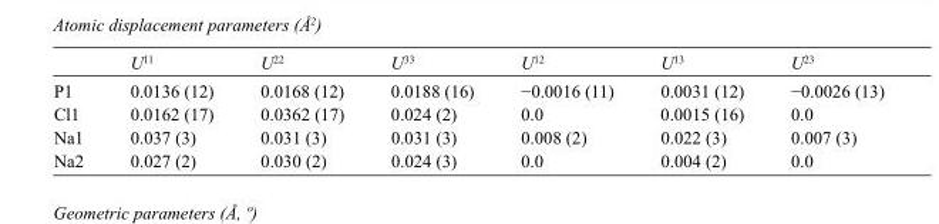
<table><thead><tr><td></td><td>U<sup>11</sup></td><td>U<sup>22</sup></td><td>U<sup>33</sup></td><td>U<sup>12</sup></td><td>U<sup>13</sup></td><td>U<sup>23</sup></td></tr></thead><tbody><tr><td>P1</td><td>0.0136 (12)</td><td>0.0168 (12)</td><td>0.0188 (16)</td><td>−0.0016 (11)</td><td>0.0031 (12)</td><td>−0.0026 (13)</td></tr><tr><td>Cl1</td><td>0.0162 (17)</td><td>0.0362 (17)</td><td>0.024 (2)</td><td>0.0</td><td>0.0015 (16)</td><td>0.0</td></tr><tr><td>Na1</td><td>0.037 (3)</td><td>0.031 (3)</td><td>0.031 (3)</td><td>0.008 (2)</td><td>0.022 (3)</td><td>0.007 (3)</td></tr><tr><td>Na2</td><td>0.027 (2)</td><td>0.030 (2)</td><td>0.024 (3)</td><td>0.0</td><td>0.004 (2)</td><td>0.0</td></tr></tbody></table>